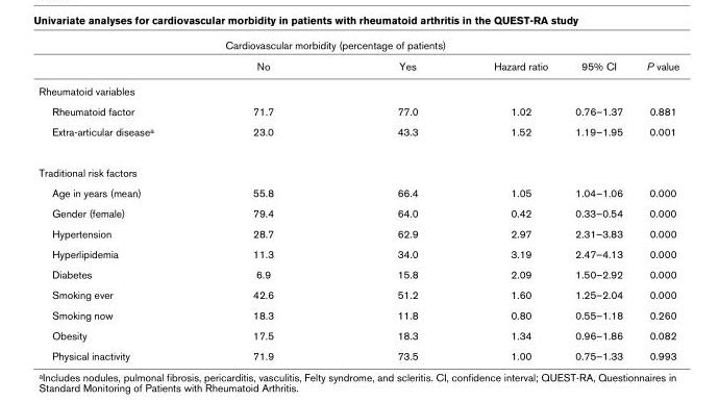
<table><thead><tr><td rowspan="2"></td><td colspan="2">Cardiovascular morbidity (percentage of patients)</td><td rowspan="2">Hazard ratio</td><td rowspan="2">95% CI</td><td rowspan="2">P value</td></tr><tr><td>No</td><td>Yes</td></tr></thead><tbody><tr><td colspan="6">Rheumatoid variables</td></tr><tr><td>Rheumatoid factor</td><td>71.7</td><td>77.0</td><td>1.02</td><td>0.76–1.37</td><td>0.881</td></tr><tr><td>Extra-articular disease<sup>a</sup></td><td>23.0</td><td>43.3</td><td>1.52</td><td>1.19–1.95</td><td>0.001</td></tr><tr><td colspan="6">Traditional risk factors</td></tr><tr><td>Age in years (mean)</td><td>55.8</td><td>66.4</td><td>1.05</td><td>1.04–1.06</td><td>0.000</td></tr><tr><td>Gender (female)</td><td>79.4</td><td>64.0</td><td>0.42</td><td>0.33–0.54</td><td>0.000</td></tr><tr><td>Hypertension</td><td>28.7</td><td>62.9</td><td>2.97</td><td>2.31–3.83</td><td>0.000</td></tr><tr><td>Hyperlipidemia</td><td>11.3</td><td>34.0</td><td>3.19</td><td>2.47–4.13</td><td>0.000</td></tr><tr><td>Diabetes</td><td>6.9</td><td>15.8</td><td>2.09</td><td>1.50–2.92</td><td>0.000</td></tr><tr><td>Smoking ever</td><td>42.6</td><td>51.2</td><td>1.60</td><td>1.25–2.04</td><td>0.000</td></tr><tr><td>Smoking now</td><td>18.3</td><td>11.8</td><td>0.80</td><td>0.55–1.18</td><td>0.260</td></tr><tr><td>Obesity</td><td>17.5</td><td>18.3</td><td>1.34</td><td>0.96–1.86</td><td>0.082</td></tr><tr><td>Physical inactivity</td><td>71.9</td><td>73.5</td><td>1.00</td><td>0.75–1.33</td><td>0.993</td></tr></tbody></table>